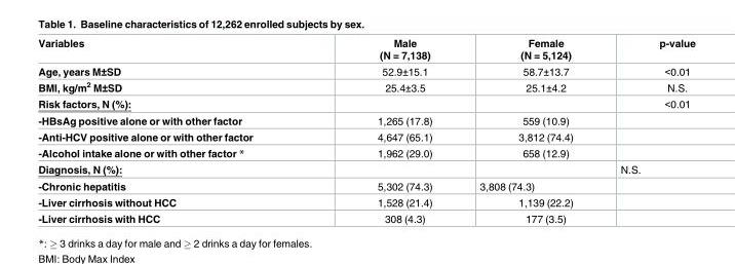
<table><thead><tr><td>Variables</td><td>Male (N = 7,138)</td><td>Female (N = 5,124)</td><td>p-value</td></tr></thead><tbody><tr><td>Age, years M±SD</td><td>52.9±15.1</td><td>58.7±13.7</td><td>&lt;0.01</td></tr><tr><td>BMI, kg/m<sup>2</sup> M±SD</td><td>25.4±3.5</td><td>25.1±4.2</td><td>N.S.</td></tr><tr><td>Risk factors, N (%):</td><td></td><td></td><td>&lt;0.01</td></tr><tr><td>-HBsAg positive alone or with other factor</td><td>1,265 (17.8)</td><td>559 (10.9)</td><td></td></tr><tr><td>-Anti-HCV positive alone or with other factor</td><td>4,647 (65.1)</td><td>3,812 (74.4)</td><td></td></tr><tr><td>-Alcohol intake alone or with other factor *</td><td>1,962 (29.0)</td><td>658 (12.9)</td><td></td></tr><tr><td>Diagnosis, N (%):</td><td></td><td></td><td>N.S.</td></tr><tr><td>-Chronic hepatitis</td><td>5,302 (74.3)</td><td>3,808 (74.3)</td><td></td></tr><tr><td>-Liver cirrhosis without HCC</td><td>1,528 (21.4)</td><td>1,139 (22.2)</td><td></td></tr><tr><td>-Liver cirrhosis with HCC</td><td>308 (4.3)</td><td>177 (3.5)</td><td></td></tr></tbody></table>